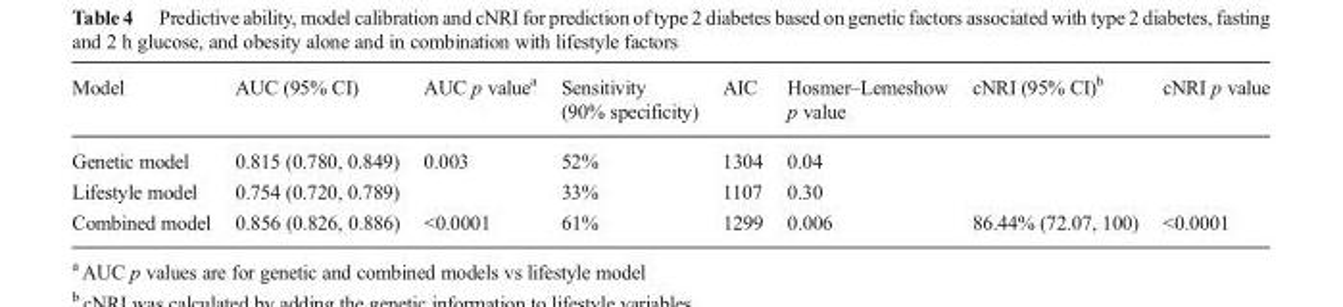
<table><thead><tr><td>Model</td><td>AUC (95% CI)</td><td>AUC p value<sup>a</sup></td><td>Sensitivity (90% specificity)</td><td>AIC</td><td>Hosmer–Lemeshow p value</td><td>cNRI (95% CI)<sup>b</sup></td><td>cNRI p value</td></tr></thead><tbody><tr><td>Genetic model</td><td>0.815 (0.780, 0.849)</td><td>0.003</td><td>52%</td><td>1304</td><td>0.04</td><td></td><td></td></tr><tr><td>Lifestyle model</td><td>0.754 (0.720, 0.789)</td><td></td><td>33%</td><td>1107</td><td>0.30</td><td></td><td></td></tr><tr><td>Combined model</td><td>0.856 (0.826, 0.886)</td><td>&lt;0.0001</td><td>61%</td><td>1299</td><td>0.006</td><td>86.44% (72.07, 100)</td><td>&lt;0.0001</td></tr></tbody></table>